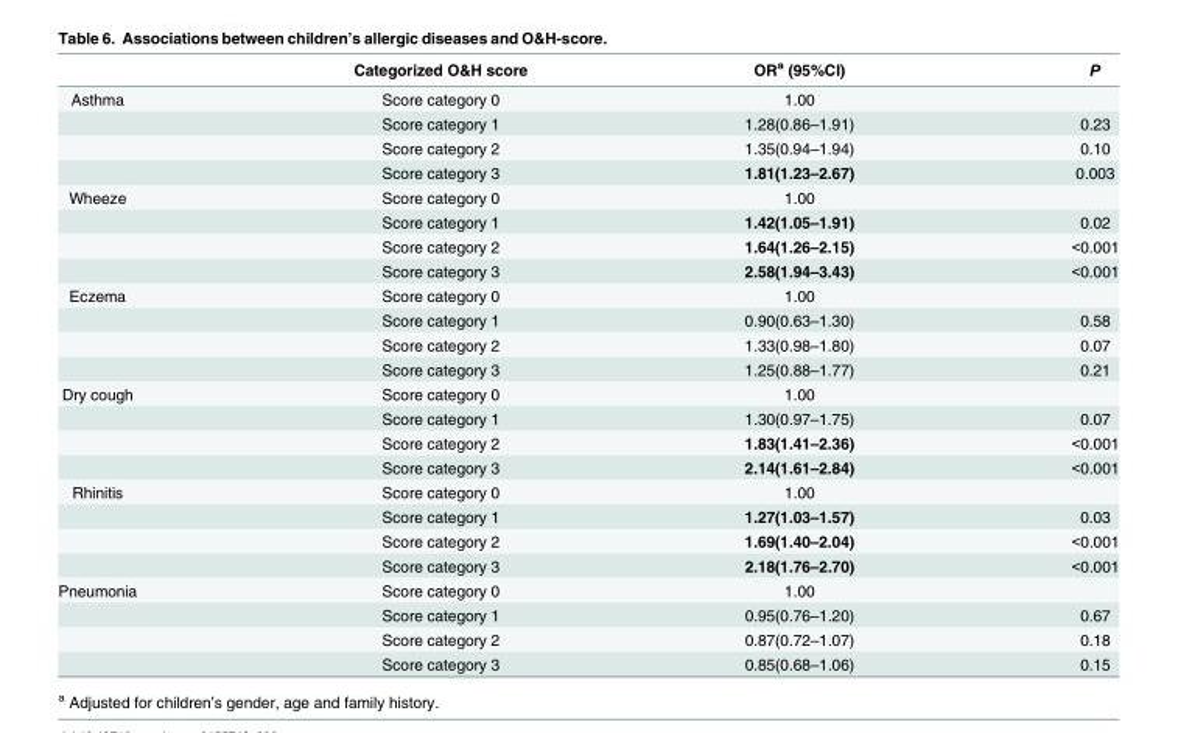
<table><thead><tr><td></td><td>Categorized O&amp;H score</td><td>OR<sup>a</sup> (95%CI)</td><td>P</td></tr></thead><tbody><tr><td rowspan="4">Asthma</td><td>Score category 0</td><td>1.00</td><td></td></tr><tr><td>Score category 1</td><td>1.28(0.86–1.91)</td><td>0.23</td></tr><tr><td>Score category 2</td><td>1.35(0.94–1.94)</td><td>0.10</td></tr><tr><td>Score category 3</td><td>1.81(1.23–2.67)</td><td>0.003</td></tr><tr><td rowspan="4">Wheeze</td><td>Score category 0</td><td>1.00</td><td></td></tr><tr><td>Score category 1</td><td>1.42(1.05–1.91)</td><td>0.02</td></tr><tr><td>Score category 2</td><td>1.64(1.26–2.15)</td><td>&lt;0.001</td></tr><tr><td>Score category 3</td><td>2.58(1.94–3.43)</td><td>&lt;0.001</td></tr><tr><td rowspan="4">Eczema</td><td>Score category 0</td><td>1.00</td><td></td></tr><tr><td>Score category 1</td><td>0.90(0.63–1.30)</td><td>0.58</td></tr><tr><td>Score category 2</td><td>1.33(0.98–1.80)</td><td>0.07</td></tr><tr><td>Score category 3</td><td>1.25(0.88–1.77)</td><td>0.21</td></tr><tr><td rowspan="4">Dry cough</td><td>Score category 0</td><td>1.00</td><td></td></tr><tr><td>Score category 1</td><td>1.30(0.97–1.75)</td><td>0.07</td></tr><tr><td>Score category 2</td><td>1.83(1.41–2.36)</td><td>&lt;0.001</td></tr><tr><td>Score category 3</td><td>2.14(1.61–2.84)</td><td>&lt;0.001</td></tr><tr><td rowspan="4">Rhinitis</td><td>Score category 0</td><td>1.00</td><td></td></tr><tr><td>Score category 1</td><td>1.27(1.03–1.57)</td><td>0.03</td></tr><tr><td>Score category 2</td><td>1.69(1.40–2.04)</td><td>&lt;0.001</td></tr><tr><td>Score category 3</td><td>2.18(1.76–2.70)</td><td>&lt;0.001</td></tr><tr><td rowspan="4">Pneumonia</td><td>Score category 0</td><td>1.00</td><td></td></tr><tr><td>Score category 1</td><td>0.95(0.76–1.20)</td><td>0.67</td></tr><tr><td>Score category 2</td><td>0.87(0.72–1.07)</td><td>0.18</td></tr><tr><td>Score category 3</td><td>0.85(0.68–1.06)</td><td>0.15</td></tr></tbody></table>